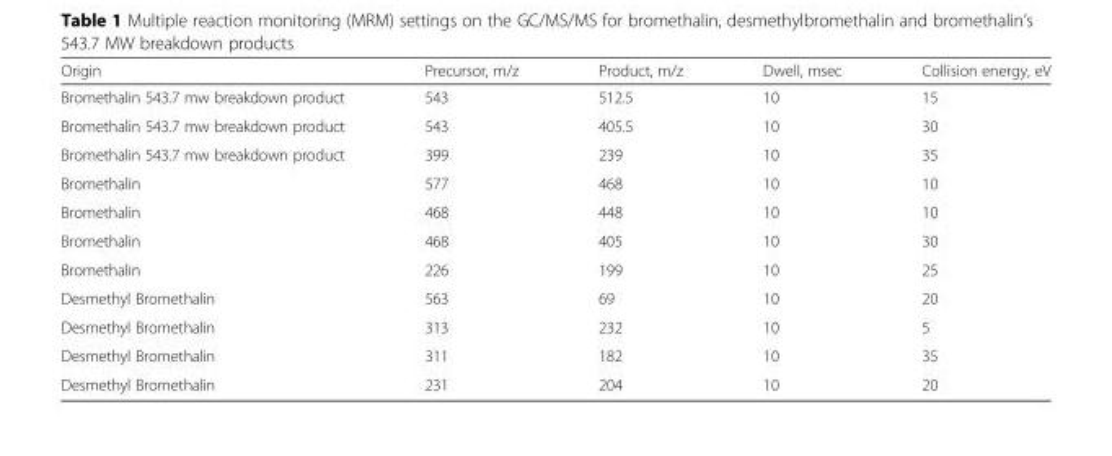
<table><thead><tr><td>Origin</td><td>Precursor, m/z</td><td>Product, m/z</td><td>Dwell, msec</td><td>Collision energy, eV</td></tr></thead><tbody><tr><td>Bromethalin 543.7 mw breakdown product</td><td>543</td><td>512.5</td><td>10</td><td>15</td></tr><tr><td>Bromethalin 543.7 mw breakdown product</td><td>543</td><td>405.5</td><td>10</td><td>30</td></tr><tr><td>Bromethalin 543.7 mw breakdown product</td><td>399</td><td>239</td><td>10</td><td>35</td></tr><tr><td>Bromethalin</td><td>577</td><td>468</td><td>10</td><td>10</td></tr><tr><td>Bromethalin</td><td>468</td><td>448</td><td>10</td><td>10</td></tr><tr><td>Bromethalin</td><td>468</td><td>405</td><td>10</td><td>30</td></tr><tr><td>Bromethalin</td><td>226</td><td>199</td><td>10</td><td>25</td></tr><tr><td>Desmethyl Bromethalin</td><td>563</td><td>69</td><td>10</td><td>20</td></tr><tr><td>Desmethyl Bromethalin</td><td>313</td><td>232</td><td>10</td><td>5</td></tr><tr><td>Desmethyl Bromethalin</td><td>311</td><td>182</td><td>10</td><td>35</td></tr><tr><td>Desmethyl Bromethalin</td><td>231</td><td>204</td><td>10</td><td>20</td></tr></tbody></table>